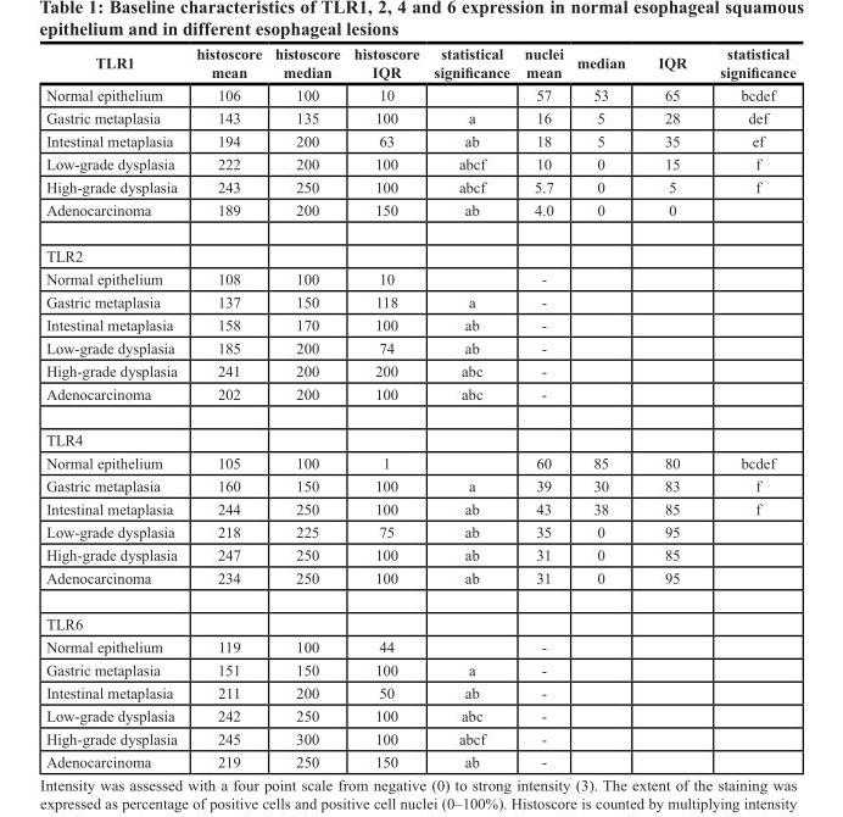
<table><thead><tr><td>TLR1</td><td>histoscore mean</td><td>histoscore median</td><td>histoscore IQR</td><td>statistical significance</td><td>nuclei mean</td><td>median</td><td>IQR</td><td>statistical significance</td></tr></thead><tbody><tr><td>Normal epithelium</td><td>106</td><td>100</td><td>10</td><td></td><td>57</td><td>53</td><td>65</td><td>bcdef</td></tr><tr><td>Gastric metaplasia</td><td>143</td><td>135</td><td>100</td><td>a</td><td>16</td><td>5</td><td>28</td><td>def</td></tr><tr><td>Intestinal metaplasia</td><td>194</td><td>200</td><td>63</td><td>ab</td><td>18</td><td>5</td><td>35</td><td>ef</td></tr><tr><td>Low-grade dysplasia</td><td>222</td><td>200</td><td>100</td><td>abcf</td><td>10</td><td>0</td><td>15</td><td>f</td></tr><tr><td>High-grade dysplasia</td><td>243</td><td>250</td><td>100</td><td>abcf</td><td>5.7</td><td>0</td><td>5</td><td>f</td></tr><tr><td>Adenocarcinoma</td><td>189</td><td>200</td><td>150</td><td>ab</td><td>4.0</td><td>0</td><td>0</td><td></td></tr><tr><td colspan="9">TLR2</td></tr><tr><td>Normal epithelium</td><td>108</td><td>100</td><td>10</td><td></td><td>-</td><td></td><td></td><td></td></tr><tr><td>Gastric metaplasia</td><td>137</td><td>150</td><td>118</td><td>a</td><td>-</td><td></td><td></td><td></td></tr><tr><td>Intestinal metaplasia</td><td>158</td><td>170</td><td>100</td><td>ab</td><td>-</td><td></td><td></td><td></td></tr><tr><td>Low-grade dysplasia</td><td>185</td><td>200</td><td>74</td><td>ab</td><td>-</td><td></td><td></td><td></td></tr><tr><td>High-grade dysplasia</td><td>241</td><td>200</td><td>200</td><td>abc</td><td>-</td><td></td><td></td><td></td></tr><tr><td>Adenocarcinoma</td><td>202</td><td>200</td><td>100</td><td>abc</td><td>-</td><td></td><td></td><td></td></tr><tr><td colspan="9">TLR4</td></tr><tr><td>Normal epithelium</td><td>105</td><td>100</td><td>1</td><td></td><td>60</td><td>85</td><td>80</td><td>bcdef</td></tr><tr><td>Gastric metaplasia</td><td>160</td><td>150</td><td>100</td><td>a</td><td>39</td><td>30</td><td>83</td><td>f</td></tr><tr><td>Intestinal metaplasia</td><td>244</td><td>250</td><td>100</td><td>ab</td><td>43</td><td>38</td><td>85</td><td>f</td></tr><tr><td>Low-grade dysplasia</td><td>218</td><td>225</td><td>75</td><td>ab</td><td>35</td><td>0</td><td>95</td><td></td></tr><tr><td>High-grade dysplasia</td><td>247</td><td>250</td><td>100</td><td>ab</td><td>31</td><td>0</td><td>85</td><td></td></tr><tr><td>Adenocarcinoma</td><td>234</td><td>250</td><td>100</td><td>ab</td><td>31</td><td>0</td><td>95</td><td></td></tr><tr><td colspan="9">TLR6</td></tr><tr><td>Normal epithelium</td><td>119</td><td>100</td><td>44</td><td></td><td>-</td><td></td><td></td><td></td></tr><tr><td>Gastric metaplasia</td><td>151</td><td>150</td><td>100</td><td>a</td><td>-</td><td></td><td></td><td></td></tr><tr><td>Intestinal metaplasia</td><td>211</td><td>200</td><td>50</td><td>ab</td><td>-</td><td></td><td></td><td></td></tr><tr><td>Low-grade dysplasia</td><td>242</td><td>250</td><td>100</td><td>abc</td><td>-</td><td></td><td></td><td></td></tr><tr><td>High-grade dysplasia</td><td>245</td><td>300</td><td>100</td><td>abcf</td><td>-</td><td></td><td></td><td></td></tr><tr><td>Adenocarcinoma</td><td>219</td><td>250</td><td>150</td><td>ab</td><td>-</td><td></td><td></td><td></td></tr></tbody></table>